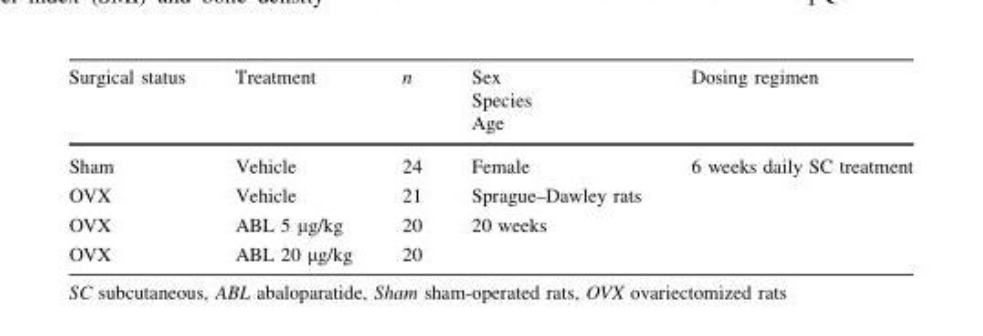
<table><thead><tr><td>Surgical status</td><td>Treatment</td><td>n</td><td>Sex Species Age</td><td>Dosing regimen</td></tr></thead><tbody><tr><td>Sham</td><td>Vehicle</td><td>24</td><td rowspan="4">Female Sprague–Dawley rats 20 weeks</td><td rowspan="4">6 weeks daily SC treatment</td></tr><tr><td>OVX</td><td>Vehicle</td><td>21</td></tr><tr><td>OVX</td><td>ABL 5 µg/kg</td><td>20</td></tr><tr><td>OVX</td><td>ABL 20 µg/kg</td><td>20</td></tr></tbody></table>